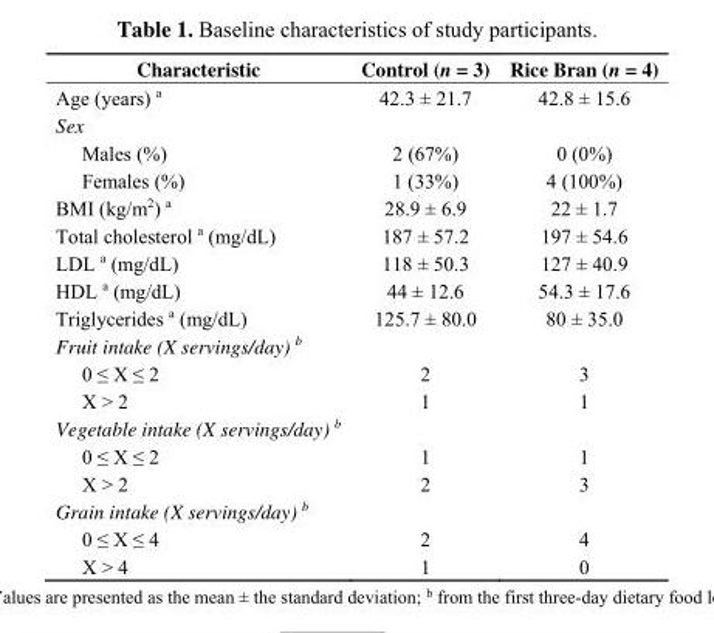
<table><thead><tr><td>Characteristic</td><td>Control (n = 3)</td><td>Rice Bran (n = 4)</td></tr></thead><tbody><tr><td>Age (years) <sup>a</sup></td><td>42.3 ± 21.7</td><td>42.8 ± 15.6</td></tr><tr><td colspan="3">Sex</td></tr><tr><td>Males (%)</td><td>2 (67%)</td><td>0 (0%)</td></tr><tr><td>Females (%)</td><td>1 (33%)</td><td>4 (100%)</td></tr><tr><td>BMI (kg/m<sup>2</sup>) <sup>a</sup></td><td>28.9 ± 6.9</td><td>22 ± 1.7</td></tr><tr><td>Total cholesterol <sup>a</sup> (mg/dL)</td><td>187 ± 57.2</td><td>197 ± 54.6</td></tr><tr><td>LDL <sup>a</sup> (mg/dL)</td><td>118 ± 50.3</td><td>127 ± 40.9</td></tr><tr><td>HDL <sup>a</sup> (mg/dL)</td><td>44 ± 12.6</td><td>54.3 ± 17.6</td></tr><tr><td>Triglycerides <sup>a</sup> (mg/dL)</td><td>125.7 ± 80.0</td><td>80 ± 35.0</td></tr><tr><td colspan="3">Fruit intake (X servings/day) <sup>b</sup></td></tr><tr><td>0 ≤ X ≤ 2</td><td>2</td><td>3</td></tr><tr><td>X &gt; 2</td><td>1</td><td>1</td></tr><tr><td colspan="3">Vegetable intake (X servings/day) <sup>b</sup></td></tr><tr><td>0 ≤ X ≤ 2</td><td>1</td><td>1</td></tr><tr><td>X &gt; 2</td><td>2</td><td>3</td></tr><tr><td colspan="3">Grain intake (X servings/day) <sup>b</sup></td></tr><tr><td>0 ≤ X ≤ 4</td><td>2</td><td>4</td></tr><tr><td>X &gt; 4</td><td>1</td><td>0</td></tr></tbody></table>